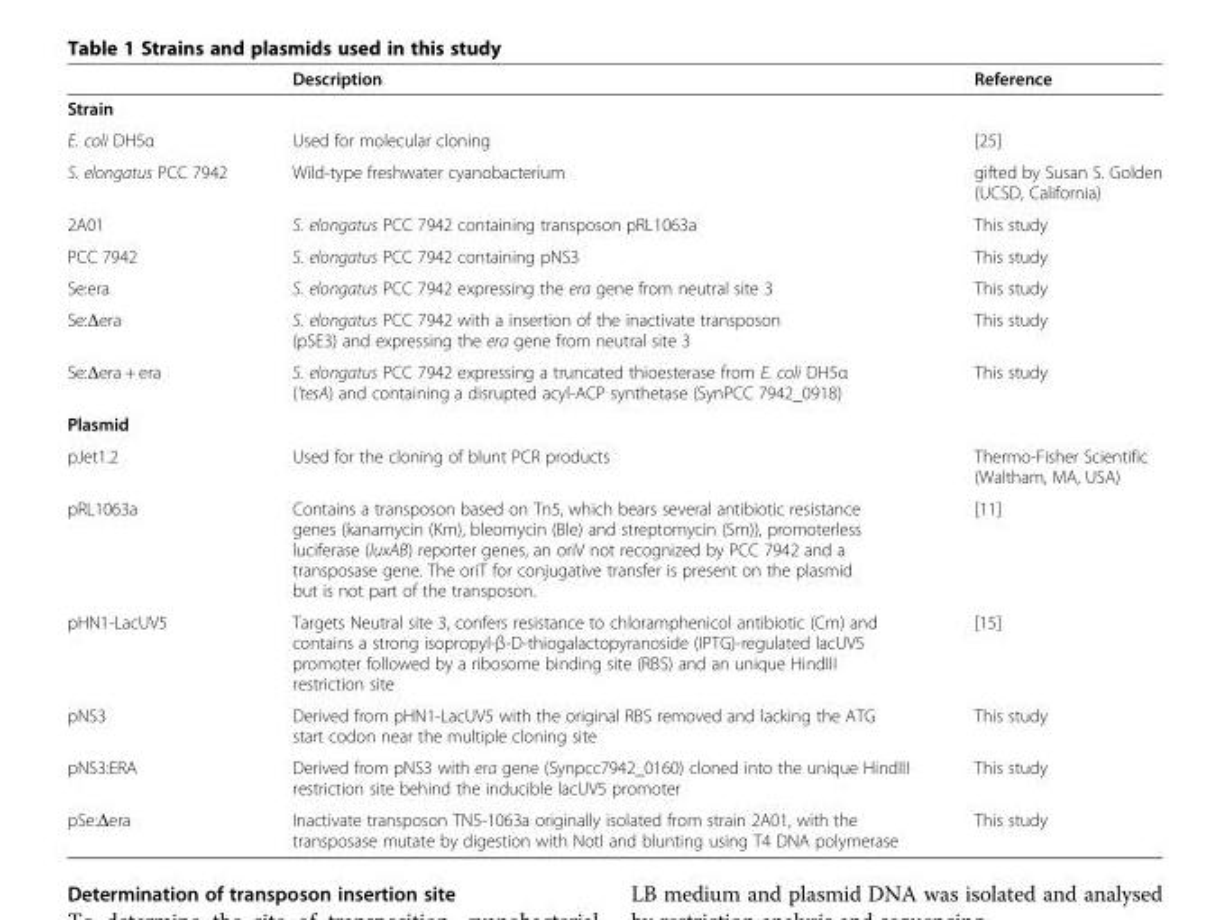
<table><thead><tr><td></td><td>Description</td><td>Reference</td></tr></thead><tbody><tr><td colspan="3">Strain</td></tr><tr><td>E. coli DH5α</td><td>Used for molecular cloning</td><td>[25]</td></tr><tr><td>S. elongatus PCC 7942</td><td>Wild-type freshwater cyanobacterium</td><td>gifted by Susan S. Golden (UCSD, California)</td></tr><tr><td>2A01</td><td>S. elongatus PCC 7942 containing transposon pRL1063a</td><td>This study</td></tr><tr><td>PCC 7942</td><td>S. elongatus PCC 7942 containing pNS3</td><td>This study</td></tr><tr><td>Se:era</td><td>S. elongatus PCC 7942 expressing the era gene from neutral site 3</td><td>This study</td></tr><tr><td>Se:Δera</td><td>S. elongatus PCC 7942 with a insertion of the inactivate transposon (pSE3) and expressing the era gene from neutral site 3</td><td>This study</td></tr><tr><td>Se:Δera + era</td><td>S. elongatus PCC 7942 expressing a truncated thioesterase from E. coli DH5α (&#x27;tesA) and containing a disrupted acyl-ACP synthetase (SynPCC 7942_0918)</td><td>This study</td></tr><tr><td colspan="3">Plasmid</td></tr><tr><td>pJet1.2</td><td>Used for the cloning of blunt PCR products</td><td>Thermo-Fisher Scientific (Waltham, MA, USA)</td></tr><tr><td>pRL1063a</td><td>Contains a transposon based on Tn5, which bears several antibiotic resistance genes (kanamycin (Km), bleomycin (Ble) and streptomycin (Sm)), promoterless luciferase (luxAB) reporter genes, an oriV not recognized by PCC 7942 and a transposase gene. The oriT for conjugative transfer is present on the plasmid but is not part of the transposon.</td><td>[11]</td></tr><tr><td>pHN1-LacUV5</td><td>Targets Neutral site 3, confers resistance to chloramphenicol antibiotic (Cm) and contains a strong isopropyl-β-D-thiogalactopyranoside (IPTG)-regulated lacUV5 promoter followed by a ribosome binding site (RBS) and an unique HindIII restriction site</td><td>[15]</td></tr><tr><td>pNS3</td><td>Derived from pHN1-LacUV5 with the original RBS removed and lacking the ATG start codon near the multiple cloning site</td><td>This study</td></tr><tr><td>pNS3:ERA</td><td>Derived from pNS3 with era gene (Synpcc7942_0160) cloned into the unique HindIII restriction site behind the inducible lacUV5 promoter</td><td>This study</td></tr><tr><td>pSe:Δera</td><td>Inactivate transposon TN5-1063a originally isolated from strain 2A01, with the transposase mutate by digestion with NotI and blunting using T4 DNA polymerase</td><td>This study</td></tr></tbody></table>